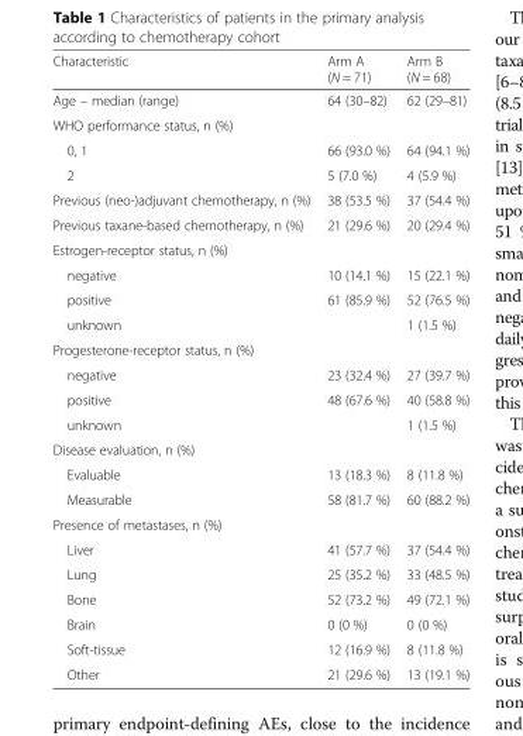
<table><thead><tr><td>Characteristic</td><td>Arm A (N = 71)</td><td>Arm B (N = 68)</td></tr></thead><tbody><tr><td>Age – median (range)</td><td>64 (30–82)</td><td>62 (29–81)</td></tr><tr><td colspan="3">WHO performance status, n (%)</td></tr><tr><td>0, 1</td><td>66 (93.0 %)</td><td>64 (94.1 %)</td></tr><tr><td>2</td><td>5 (7.0 %)</td><td>4 (5.9 %)</td></tr><tr><td>Previous (neo-)adjuvant chemotherapy, n (%)</td><td>38 (53.5 %)</td><td>37 (54.4 %)</td></tr><tr><td>Previous taxane-based chemotherapy, n (%)</td><td>21 (29.6 %)</td><td>20 (29.4 %)</td></tr><tr><td colspan="3">Estrogen-receptor status, n (%)</td></tr><tr><td>negative</td><td>10 (14.1 %)</td><td>15 (22.1 %)</td></tr><tr><td>positive</td><td>61 (85.9 %)</td><td>52 (76.5 %)</td></tr><tr><td>unknown</td><td></td><td>1 (1.5 %)</td></tr><tr><td colspan="3">Progesterone-receptor status, n (%)</td></tr><tr><td>negative</td><td>23 (32.4 %)</td><td>27 (39.7 %)</td></tr><tr><td>positive</td><td>48 (67.6 %)</td><td>40 (58.8 %)</td></tr><tr><td>unknown</td><td></td><td>1 (1.5 %)</td></tr><tr><td colspan="3">Disease evaluation, n (%)</td></tr><tr><td>Evaluable</td><td>13 (18.3 %)</td><td>8 (11.8 %)</td></tr><tr><td>Measurable</td><td>58 (81.7 %)</td><td>60 (88.2 %)</td></tr><tr><td colspan="3">Presence of metastases, n (%)</td></tr><tr><td>Liver</td><td>41 (57.7 %)</td><td>37 (54.4 %)</td></tr><tr><td>Lung</td><td>25 (35.2 %)</td><td>33 (48.5 %)</td></tr><tr><td>Bone</td><td>52 (73.2 %)</td><td>49 (72.1 %)</td></tr><tr><td>Brain</td><td>0 (0 %)</td><td>0 (0 %)</td></tr><tr><td>Soft-tissue</td><td>12 (16.9 %)</td><td>8 (11.8 %)</td></tr><tr><td>Other</td><td>21 (29.6 %)</td><td>13 (19.1 %)</td></tr></tbody></table>